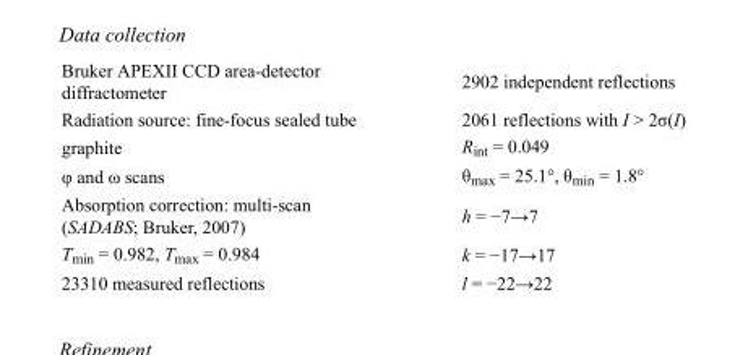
<table><tbody><tr><td>Bruker APEXII CCD area-detector diffractometer</td><td>2902 independent reflections</td></tr><tr><td>Radiation source: fine-focus sealed tube</td><td>2061 reflections with I &gt; 2σ(I)</td></tr><tr><td>graphite</td><td>R<sub>int</sub> = 0.049</td></tr><tr><td>φ and ω scans</td><td>θ<sub>max</sub> = 25.1°, θ<sub>min</sub> = 1.8°</td></tr><tr><td>Absorption correction: multi-scan (SADABS; Bruker, 2007)</td><td>h = −7→7</td></tr><tr><td>T<sub>min</sub> = 0.982, T<sub>max</sub> = 0.984</td><td>k = −17→17</td></tr><tr><td>23310 measured reflections</td><td>l = −22→22</td></tr></tbody></table>